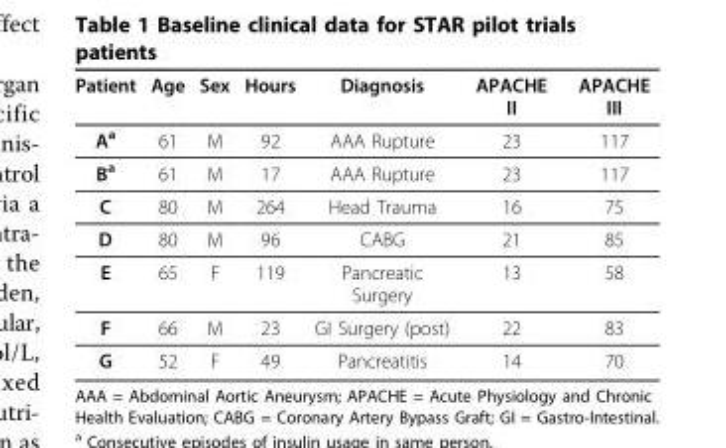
<table><thead><tr><td>Patient</td><td>Age</td><td>Sex</td><td>Hours</td><td>Diagnosis</td><td>APACHE II</td><td>APACHE III</td></tr></thead><tbody><tr><td>A<sup>a</sup></td><td>61</td><td>M</td><td>92</td><td>AAA Rupture</td><td>23</td><td>117</td></tr><tr><td>B<sup>a</sup></td><td>61</td><td>M</td><td>17</td><td>AAA Rupture</td><td>23</td><td>117</td></tr><tr><td>C</td><td>80</td><td>M</td><td>264</td><td>Head Trauma</td><td>16</td><td>75</td></tr><tr><td>D</td><td>80</td><td>M</td><td>96</td><td>CABG</td><td>21</td><td>85</td></tr><tr><td>E</td><td>65</td><td>F</td><td>119</td><td>Pancreatic Surgery</td><td>13</td><td>58</td></tr><tr><td>F</td><td>66</td><td>M</td><td>23</td><td>GI Surgery (post)</td><td>22</td><td>83</td></tr><tr><td>G</td><td>52</td><td>F</td><td>49</td><td>Pancreatitis</td><td>14</td><td>70</td></tr></tbody></table>